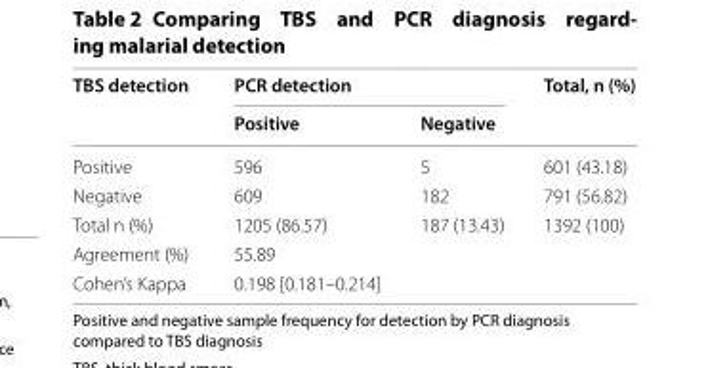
<table><thead><tr><td rowspan="2">TBS detection</td><td colspan="2">PCR detection</td><td rowspan="2">Total, n (%)</td></tr><tr><td>Positive</td><td>Negative</td></tr></thead><tbody><tr><td>Positive</td><td>596</td><td>5</td><td>601 (43.18)</td></tr><tr><td>Negative</td><td>609</td><td>182</td><td>791 (56.82)</td></tr><tr><td>Total n (%)</td><td>1205 (86.57)</td><td>187 (13.43)</td><td>1392 (100)</td></tr><tr><td>Agreement (%)</td><td colspan="3">55.89</td></tr><tr><td>Cohen’s Kappa</td><td colspan="3">0.198 [0.181–0.214]</td></tr></tbody></table>